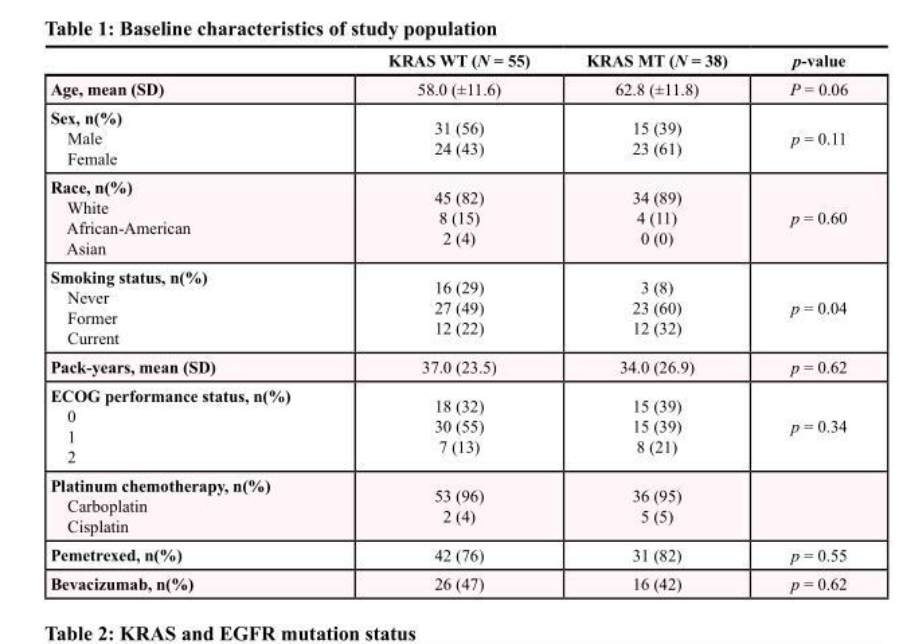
<table><thead><tr><td></td><td>KRAS WT (N = 55)</td><td>KRAS MT (N = 38)</td><td>p-value</td></tr></thead><tbody><tr><td>Age, mean (SD)</td><td>58.0 (±11.6)</td><td>62.8 (±11.8)</td><td>P = 0.06</td></tr><tr><td>Sex, n(%) Male Female</td><td>31 (56) 24 (43)</td><td>15 (39) 23 (61)</td><td>p = 0.11</td></tr><tr><td>Race, n(%) White African-American Asian</td><td>45 (82) 8 (15) 2 (4)</td><td>34 (89) 4 (11) 0 (0)</td><td>p = 0.60</td></tr><tr><td>Smoking status, n(%) Never Former Current</td><td>16 (29) 27 (49) 12 (22)</td><td>3 (8) 23 (60) 12 (32)</td><td>p = 0.04</td></tr><tr><td>Pack-years, mean (SD)</td><td>37.0 (23.5)</td><td>34.0 (26.9)</td><td>p = 0.62</td></tr><tr><td>ECOG performance status, n(%) 0 1 2</td><td>18 (32) 30 (55) 7 (13)</td><td>15 (39) 15 (39) 8 (21)</td><td>p = 0.34</td></tr><tr><td>Platinum chemotherapy, n(%) Carboplatin Cisplatin</td><td>53 (96) 2 (4)</td><td>36 (95) 5 (5)</td><td></td></tr><tr><td>Pemetrexed, n(%)</td><td>42 (76)</td><td>31 (82)</td><td>p = 0.55</td></tr><tr><td>Bevacizumab, n(%)</td><td>26 (47)</td><td>16 (42)</td><td>p = 0.62</td></tr></tbody></table>